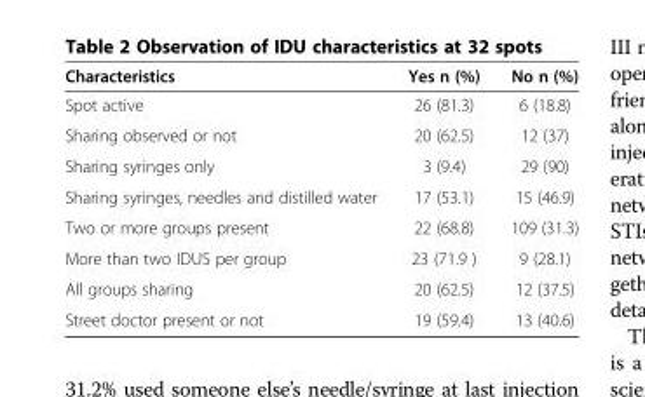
<table><thead><tr><td>Characteristics</td><td>Yes n (%)</td><td>No n (%)</td></tr></thead><tbody><tr><td>Spot active</td><td>26 (81.3)</td><td>6 (18.8)</td></tr><tr><td>Sharing observed or not</td><td>20 (62.5)</td><td>12 (37)</td></tr><tr><td>Sharing syringes only</td><td>3 (9.4)</td><td>29 (90)</td></tr><tr><td>Sharing syringes, needles and distilled water</td><td>17 (53.1)</td><td>15 (46.9)</td></tr><tr><td>Two or more groups present</td><td>22 (68.8)</td><td>109 (31.3)</td></tr><tr><td>More than two IDUS per group</td><td>23 (71.9 )</td><td>9 (28.1)</td></tr><tr><td>All groups sharing</td><td>20 (62.5)</td><td>12 (37.5)</td></tr><tr><td>Street doctor present or not</td><td>19 (59.4)</td><td>13 (40.6)</td></tr></tbody></table>